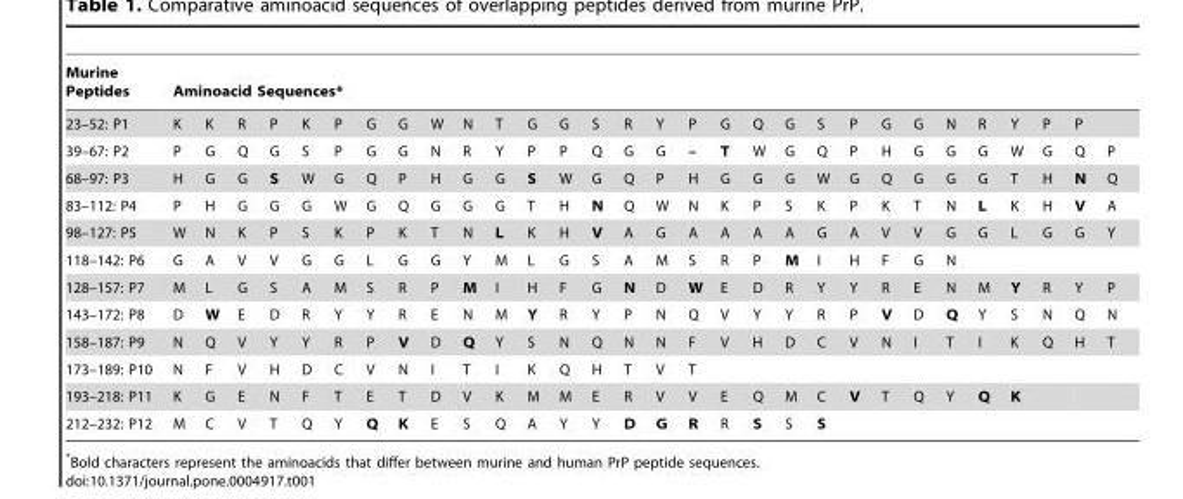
<table><thead><tr><td rowspan="2">Murine Peptides 23–52: P1</td><td colspan="30">Aminoacid Sequences*</td></tr><tr><td>K</td><td>K</td><td>R</td><td>P</td><td>K</td><td>P</td><td>G</td><td>G</td><td>W</td><td>N</td><td>T</td><td>G</td><td>G</td><td>S</td><td>R</td><td>Y</td><td>P</td><td>G</td><td>Q</td><td>G</td><td>S</td><td>P</td><td>G</td><td>G</td><td>N</td><td>R</td><td>Y</td><td>P</td><td>P</td><td></td></tr></thead><tbody><tr><td>39–67: P2</td><td>P</td><td>G</td><td>Q</td><td>G</td><td>S</td><td>P</td><td>G</td><td>G</td><td>N</td><td>R</td><td>Y</td><td>P</td><td>P</td><td>Q</td><td>G</td><td>G</td><td>–</td><td>T</td><td>W</td><td>G</td><td>Q</td><td>P</td><td>H</td><td>G</td><td>G</td><td>G</td><td>W</td><td>G</td><td>Q</td><td>P</td></tr><tr><td>68–97: P3</td><td>H</td><td>G</td><td>G</td><td>S</td><td>W</td><td>G</td><td>Q</td><td>P</td><td>H</td><td>G</td><td>G</td><td>S</td><td>W</td><td>G</td><td>Q</td><td>P</td><td>H</td><td>G</td><td>G</td><td>G</td><td>W</td><td>G</td><td>Q</td><td>G</td><td>G</td><td>G</td><td>T</td><td>H</td><td>N</td><td>Q</td></tr><tr><td>83–112: P4</td><td>P</td><td>H</td><td>G</td><td>G</td><td>G</td><td>W</td><td>G</td><td>Q</td><td>G</td><td>G</td><td>G</td><td>T</td><td>H</td><td>N</td><td>Q</td><td>W</td><td>N</td><td>K</td><td>P</td><td>S</td><td>K</td><td>P</td><td>K</td><td>T</td><td>N</td><td>L</td><td>K</td><td>H</td><td>V</td><td>A</td></tr><tr><td>98–127: P5</td><td>W</td><td>N</td><td>K</td><td>P</td><td>S</td><td>K</td><td>P</td><td>K</td><td>T</td><td>N</td><td>L</td><td>K</td><td>H</td><td>V</td><td>A</td><td>G</td><td>A</td><td>A</td><td>A</td><td>A</td><td>G</td><td>A</td><td>V</td><td>V</td><td>G</td><td>G</td><td>L</td><td>G</td><td>G</td><td>Y</td></tr><tr><td>118–142: P6</td><td>G</td><td>A</td><td>V</td><td>V</td><td>G</td><td>G</td><td>L</td><td>G</td><td>G</td><td>Y</td><td>M</td><td>L</td><td>G</td><td>S</td><td>A</td><td>M</td><td>S</td><td>R</td><td>P</td><td>M</td><td>I</td><td>H</td><td>F</td><td>G</td><td>N</td><td></td><td></td><td></td><td></td><td></td></tr><tr><td>128–157: P7</td><td>M</td><td>L</td><td>G</td><td>S</td><td>A</td><td>M</td><td>S</td><td>R</td><td>P</td><td>M</td><td>I</td><td>H</td><td>F</td><td>G</td><td>N</td><td>D</td><td>W</td><td>E</td><td>D</td><td>R</td><td>Y</td><td>Y</td><td>R</td><td>E</td><td>N</td><td>M</td><td>Y</td><td>R</td><td>Y</td><td>P</td></tr><tr><td>143–172: P8</td><td>D</td><td>W</td><td>E</td><td>D</td><td>R</td><td>Y</td><td>Y</td><td>R</td><td>E</td><td>N</td><td>M</td><td>Y</td><td>R</td><td>Y</td><td>P</td><td>N</td><td>Q</td><td>V</td><td>Y</td><td>Y</td><td>R</td><td>P</td><td>V</td><td>D</td><td>Q</td><td>Y</td><td>S</td><td>N</td><td>Q</td><td>N</td></tr><tr><td>158–187: P9</td><td>N</td><td>Q</td><td>V</td><td>Y</td><td>Y</td><td>R</td><td>P</td><td>V</td><td>D</td><td>Q</td><td>Y</td><td>S</td><td>N</td><td>Q</td><td>N</td><td>N</td><td>F</td><td>V</td><td>H</td><td>D</td><td>C</td><td>V</td><td>N</td><td>I</td><td>T</td><td>I</td><td>K</td><td>Q</td><td>H</td><td>T</td></tr><tr><td>173–189: P10</td><td>N</td><td>F</td><td>V</td><td>H</td><td>D</td><td>C</td><td>V</td><td>N</td><td>I</td><td>T</td><td>I</td><td>K</td><td>Q</td><td>H</td><td>T</td><td>V</td><td>T</td><td></td><td></td><td></td><td></td><td></td><td></td><td></td><td></td><td></td><td></td><td></td><td></td><td></td></tr><tr><td>193–218: P11</td><td>K</td><td>G</td><td>E</td><td>N</td><td>F</td><td>T</td><td>E</td><td>T</td><td>D</td><td>V</td><td>K</td><td>M</td><td>M</td><td>E</td><td>R</td><td>V</td><td>V</td><td>E</td><td>Q</td><td>M</td><td>C</td><td>V</td><td>T</td><td>Q</td><td>Y</td><td>Q</td><td>K</td><td></td><td></td><td></td></tr><tr><td>212–232: P12</td><td>M</td><td>C</td><td>V</td><td>T</td><td>Q</td><td>Y</td><td>Q</td><td>K</td><td>E</td><td>S</td><td>Q</td><td>A</td><td>Y</td><td>Y</td><td>D</td><td>G</td><td>R</td><td>R</td><td>S</td><td>S</td><td>S</td><td></td><td></td><td></td><td></td><td></td><td></td><td></td><td></td><td></td></tr></tbody></table>